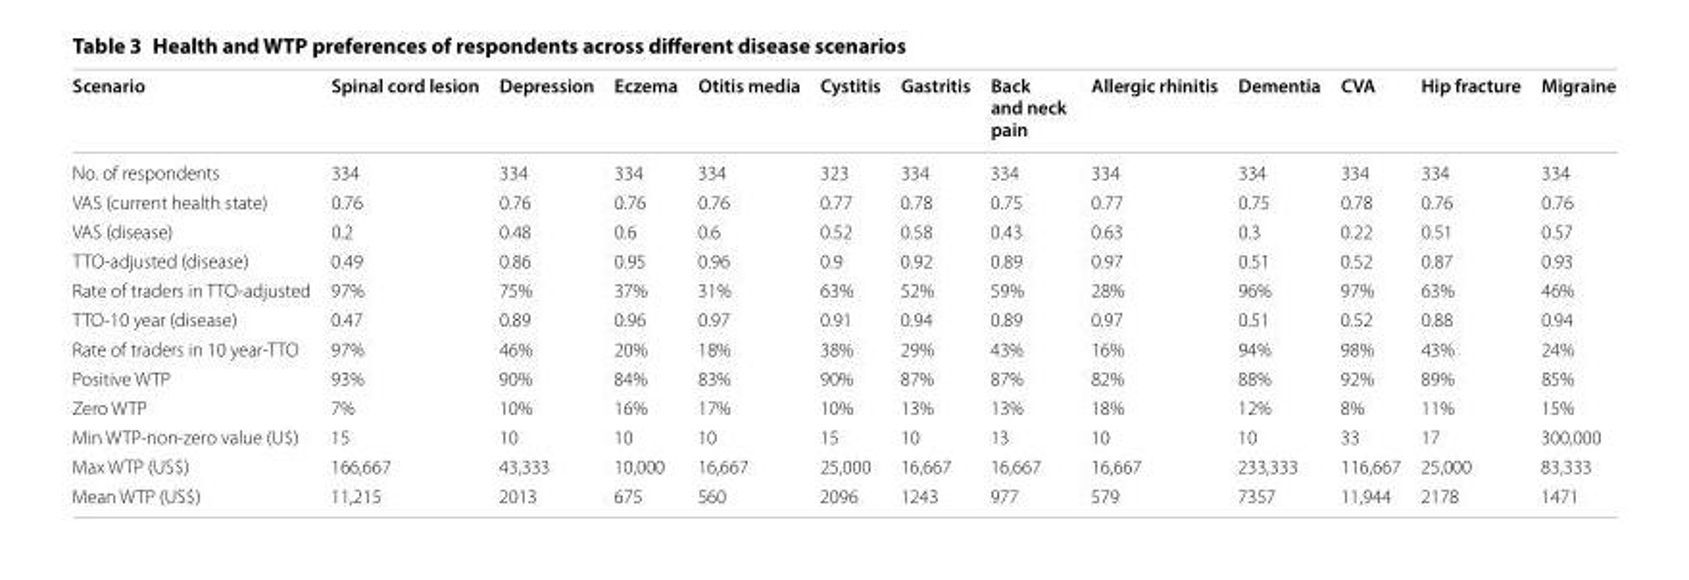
<table><thead><tr><td>Scenario</td><td>Spinal cord lesion</td><td>Depression</td><td>Eczema</td><td>Otitis media</td><td>Cystitis</td><td>Gastritis</td><td>Back and neck pain</td><td>Allergic rhinitis</td><td>Dementia</td><td>CVA</td><td>Hip fracture</td><td>Migraine</td></tr></thead><tbody><tr><td>No. of respondents</td><td>334</td><td>334</td><td>334</td><td>334</td><td>323</td><td>334</td><td>334</td><td>334</td><td>334</td><td>334</td><td>334</td><td>334</td></tr><tr><td>VAS (current health state)</td><td>0.76</td><td>0.76</td><td>0.76</td><td>0.76</td><td>0.77</td><td>0.78</td><td>0.75</td><td>0.77</td><td>0.75</td><td>0.78</td><td>0.76</td><td>0.76</td></tr><tr><td>VAS (disease)</td><td>0.2</td><td>0.48</td><td>0.6</td><td>0.6</td><td>0.52</td><td>0.58</td><td>0.43</td><td>0.63</td><td>0.3</td><td>0.22</td><td>0.51</td><td>0.57</td></tr><tr><td>TTO-adjusted (disease)</td><td>0.49</td><td>0.86</td><td>0.95</td><td>0.96</td><td>0.9</td><td>0.92</td><td>0.89</td><td>0.97</td><td>0.51</td><td>0.52</td><td>0.87</td><td>0.93</td></tr><tr><td>Rate of traders in TTO-adjusted</td><td>97%</td><td>75%</td><td>37%</td><td>31%</td><td>63%</td><td>52%</td><td>59%</td><td>28%</td><td>96%</td><td>97%</td><td>63%</td><td>46%</td></tr><tr><td>TTO-10 year (disease)</td><td>0.47</td><td>0.89</td><td>0.96</td><td>0.97</td><td>0.91</td><td>0.94</td><td>0.89</td><td>0.97</td><td>0.51</td><td>0.52</td><td>0.88</td><td>0.94</td></tr><tr><td>Rate of traders in 10 year-TTO</td><td>97%</td><td>46%</td><td>20%</td><td>18%</td><td>38%</td><td>29%</td><td>43%</td><td>16%</td><td>94%</td><td>98%</td><td>43%</td><td>24%</td></tr><tr><td>Positive WTP</td><td>93%</td><td>90%</td><td>84%</td><td>83%</td><td>90%</td><td>87%</td><td>87%</td><td>82%</td><td>88%</td><td>92%</td><td>89%</td><td>85%</td></tr><tr><td>Zero WTP</td><td>7%</td><td>10%</td><td>16%</td><td>17%</td><td>10%</td><td>13%</td><td>13%</td><td>18%</td><td>12%</td><td>8%</td><td>11%</td><td>15%</td></tr><tr><td>Min WTP-non-zero value (U$)</td><td>15</td><td>10</td><td>10</td><td>10</td><td>15</td><td>10</td><td>13</td><td>10</td><td>10</td><td>33</td><td>17</td><td>300,000</td></tr><tr><td>Max WTP (US$)</td><td>166,667</td><td>43,333</td><td>10,000</td><td>16,667</td><td>25,000</td><td>16,667</td><td>16,667</td><td>16,667</td><td>233,333</td><td>116,667</td><td>25,000</td><td>83,333</td></tr><tr><td>Mean WTP (US$)</td><td>11,215</td><td>2013</td><td>675</td><td>560</td><td>2096</td><td>1243</td><td>977</td><td>579</td><td>7357</td><td>11,944</td><td>2178</td><td>1471</td></tr></tbody></table>